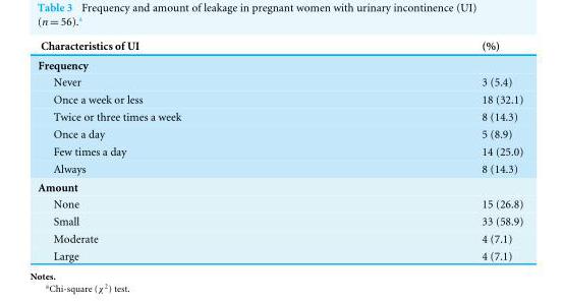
<table><thead><tr><td>Characteristics of UI</td><td>(%)</td></tr></thead><tbody><tr><td colspan="2">Frequency</td></tr><tr><td>Never</td><td>3 (5.4)</td></tr><tr><td>Once a week or less</td><td>18 (32.1)</td></tr><tr><td>Twice or three times a week</td><td>8 (14.3)</td></tr><tr><td>Once a day</td><td>5 (8.9)</td></tr><tr><td>Few times a day</td><td>14 (25.0)</td></tr><tr><td>Always</td><td>8 (14.3)</td></tr><tr><td colspan="2">Amount</td></tr><tr><td>None</td><td>15 (26.8)</td></tr><tr><td>Small</td><td>33 (58.9)</td></tr><tr><td>Moderate</td><td>4 (7.1)</td></tr><tr><td>Large</td><td>4 (7.1)</td></tr></tbody></table>